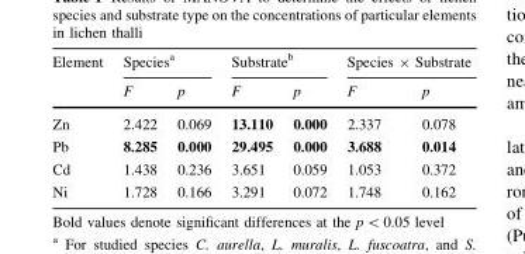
<table><thead><tr><td rowspan="2">Element</td><td colspan="2">Species<sup>a</sup></td><td colspan="2">Substrate<sup>b</sup></td><td colspan="2">Species × Substrate</td></tr><tr><td>F</td><td>p</td><td>F</td><td>p</td><td>F</td><td>p</td></tr></thead><tbody><tr><td>Zn</td><td>2.422</td><td>0.069</td><td>13.110</td><td>0.000</td><td>2.337</td><td>0.078</td></tr><tr><td>Pb</td><td>8.285</td><td>0.000</td><td>29.495</td><td>0.000</td><td>3.688</td><td>0.014</td></tr><tr><td>Cd</td><td>1.438</td><td>0.236</td><td>3.651</td><td>0.059</td><td>1.053</td><td>0.372</td></tr><tr><td>Ni</td><td>1.728</td><td>0.166</td><td>3.291</td><td>0.072</td><td>1.748</td><td>0.162</td></tr></tbody></table>